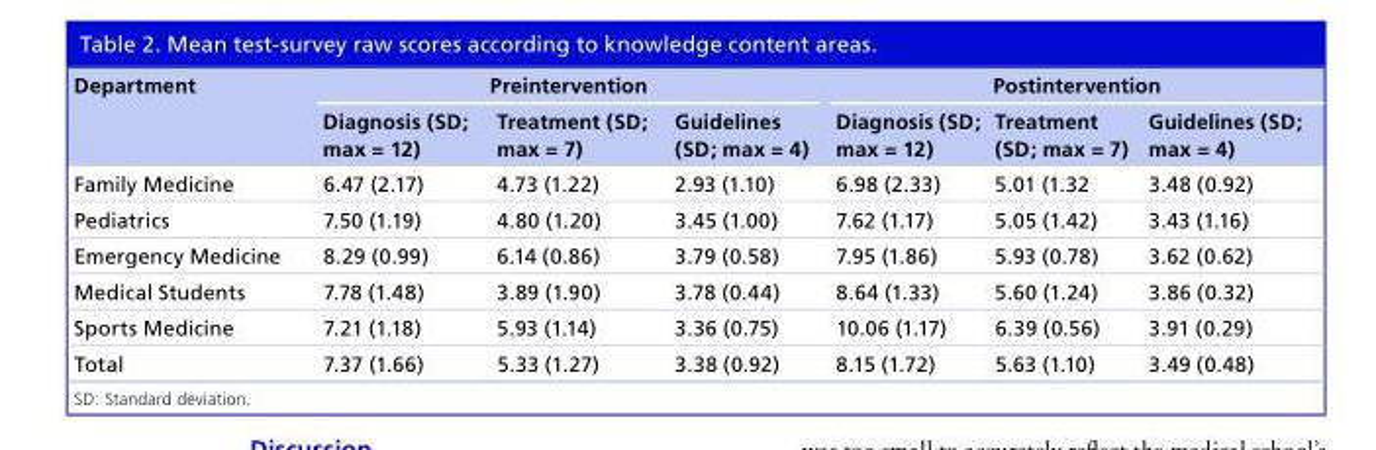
<table><thead><tr><td rowspan="2">Department</td><td colspan="3">Preintervention</td><td colspan="3">Postintervention</td></tr><tr><td>Diagnosis (SD; max = 12)</td><td>Treatment (SD; max = 7)</td><td>Guidelines (SD; max = 4)</td><td>Diagnosis (SD; max = 12)</td><td>Treatment (SD; max = 7)</td><td>Guidelines (SD; max = 4)</td></tr></thead><tbody><tr><td>Family Medicine</td><td>6.47 (2.17)</td><td>4.73 (1.22)</td><td>2.93 (1.10)</td><td>6.98 (2.33)</td><td>5.01 (1.32</td><td>3.48 (0.92)</td></tr><tr><td>Pediatrics</td><td>7.50 (1.19)</td><td>4.80 (1.20)</td><td>3.45 (1.00)</td><td>7.62 (1.17)</td><td>5.05 (1.42)</td><td>3.43 (1.16)</td></tr><tr><td>Emergency Medicine</td><td>8.29 (0.99)</td><td>6.14 (0.86)</td><td>3.79 (0.58)</td><td>7.95 (1.86)</td><td>5.93 (0.78)</td><td>3.62 (0.62)</td></tr><tr><td>Medical Students</td><td>7.78 (1.48)</td><td>3.89 (1.90)</td><td>3.78 (0.44)</td><td>8.64 (1.33)</td><td>5.60 (1.24)</td><td>3.86 (0.32)</td></tr><tr><td>Sports Medicine</td><td>7.21 (1.18)</td><td>5.93 (1.14)</td><td>3.36 (0.75)</td><td>10.06 (1.17)</td><td>6.39 (0.56)</td><td>3.91 (0.29)</td></tr><tr><td>Total</td><td>7.37 (1.66)</td><td>5.33 (1.27)</td><td>3.38 (0.92)</td><td>8.15 (1.72)</td><td>5.63 (1.10)</td><td>3.49 (0.48)</td></tr></tbody></table>